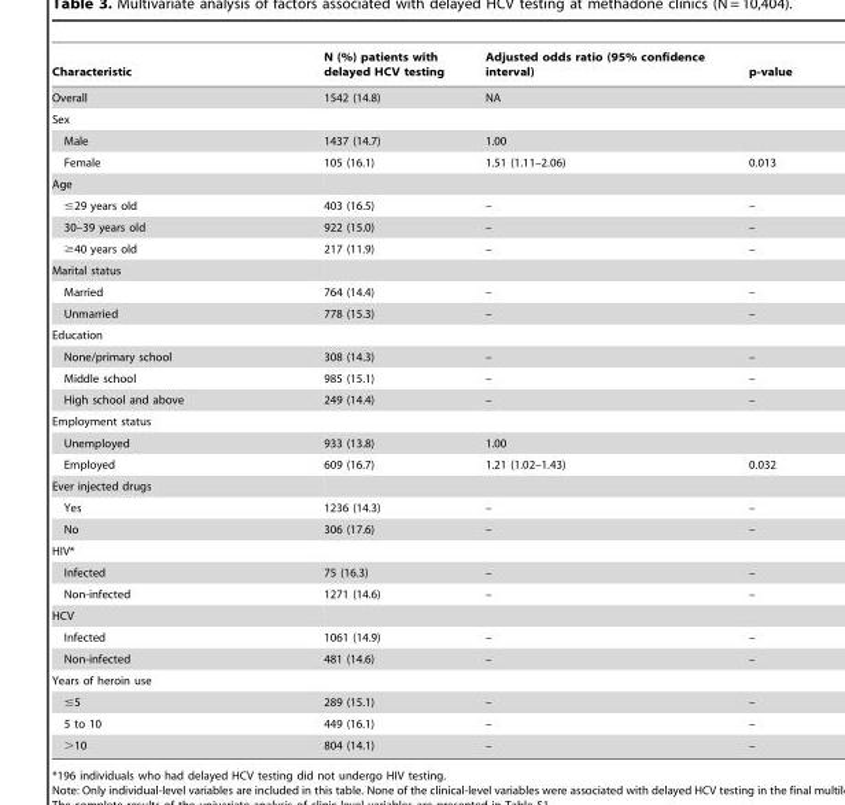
<table><thead><tr><td>Characteristic</td><td>N (%) patients with delayed HCV testing</td><td>Adjusted odds ratio (95% confidence interval)</td><td>p-value</td></tr></thead><tbody><tr><td>Overall</td><td>1542 (14.8)</td><td>NA</td><td></td></tr><tr><td colspan="4">Sex</td></tr><tr><td>Male</td><td>1437 (14.7)</td><td>1.00</td><td></td></tr><tr><td>Female</td><td>105 (16.1)</td><td>1.51 (1.11–2.06)</td><td>0.013</td></tr><tr><td colspan="4">Age</td></tr><tr><td>≤29 years old</td><td>403 (16.5)</td><td>–</td><td>–</td></tr><tr><td>30–39 years old</td><td>922 (15.0)</td><td>–</td><td>–</td></tr><tr><td>≥40 years old</td><td>217 (11.9)</td><td>–</td><td>–</td></tr><tr><td colspan="4">Marital status</td></tr><tr><td>Married</td><td>764 (14.4)</td><td>–</td><td>–</td></tr><tr><td>Unmarried</td><td>778 (15.3)</td><td>–</td><td>–</td></tr><tr><td colspan="4">Education</td></tr><tr><td>None/primary school</td><td>308 (14.3)</td><td>–</td><td>–</td></tr><tr><td>Middle school</td><td>985 (15.1)</td><td>–</td><td>–</td></tr><tr><td>High school and above</td><td>249 (14.4)</td><td>–</td><td>–</td></tr><tr><td colspan="4">Employment status</td></tr><tr><td>Unemployed</td><td>933 (13.8)</td><td>1.00</td><td></td></tr><tr><td>Employed</td><td>609 (16.7)</td><td>1.21 (1.02–1.43)</td><td>0.032</td></tr><tr><td colspan="4">Ever injected drugs</td></tr><tr><td>Yes</td><td>1236 (14.3)</td><td>–</td><td>–</td></tr><tr><td>No</td><td>306 (17.6)</td><td>–</td><td>–</td></tr><tr><td colspan="4">HIV*</td></tr><tr><td>Infected</td><td>75 (16.3)</td><td>–</td><td>–</td></tr><tr><td>Non-infected</td><td>1271 (14.6)</td><td>–</td><td>–</td></tr><tr><td colspan="4">HCV</td></tr><tr><td>Infected</td><td>1061 (14.9)</td><td>–</td><td>–</td></tr><tr><td>Non-infected</td><td>481 (14.6)</td><td>–</td><td>–</td></tr><tr><td colspan="4">Years of heroin use</td></tr><tr><td>≤5</td><td>289 (15.1)</td><td>–</td><td>–</td></tr><tr><td>5 to 10</td><td>449 (16.1)</td><td>–</td><td>–</td></tr><tr><td>&gt;10</td><td>804 (14.1)</td><td>–</td><td>–</td></tr></tbody></table>